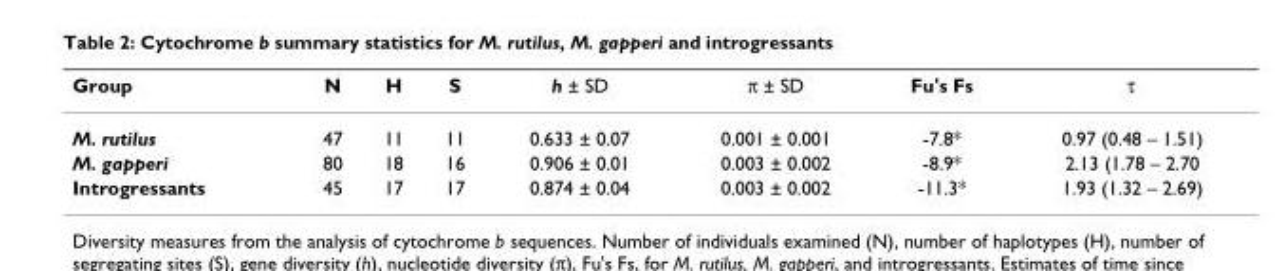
<table><thead><tr><td>Group</td><td>N</td><td>H</td><td>S</td><td>h ± SD</td><td>π ± SD</td><td>Fu&#x27;s Fs</td><td>τ</td></tr></thead><tbody><tr><td>M. rutilus</td><td>47</td><td>11</td><td>11</td><td>0.633 ± 0.07</td><td>0.001 ± 0.001</td><td>-7.8*</td><td>0.97 (0.48 – 1.51)</td></tr><tr><td>M. gapperi</td><td>80</td><td>18</td><td>16</td><td>0.906 ± 0.01</td><td>0.003 ± 0.002</td><td>-8.9*</td><td>2.13 (1.78 – 2.70</td></tr><tr><td>Introgressants</td><td>45</td><td>17</td><td>17</td><td>0.874 ± 0.04</td><td>0.003 ± 0.002</td><td>-11.3*</td><td>1.93 (1.32 – 2.69)</td></tr></tbody></table>